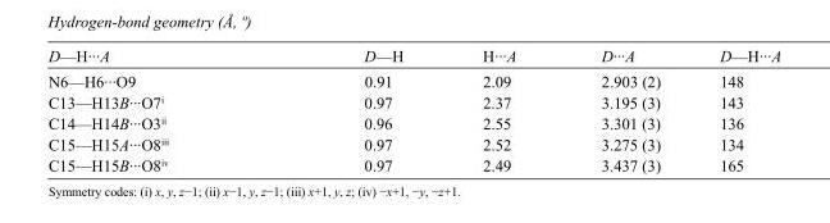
<table><tbody><tr><td>D—H···A</td><td>D—H</td><td>H···A</td><td>D···A</td><td>D—H···A</td></tr><tr><td>N6—H6···O9</td><td>0.91</td><td>2.09</td><td>2.903 (2)</td><td>148</td></tr><tr><td>C13—H13B···O7<sup>i</sup></td><td>0.97</td><td>2.37</td><td>3.195 (3)</td><td>143</td></tr><tr><td>C14—H14B···O3<sup>ii</sup></td><td>0.96</td><td>2.55</td><td>3.301 (3)</td><td>136</td></tr><tr><td>C15—H15A···O8<sup>iii</sup></td><td>0.97</td><td>2.52</td><td>3.275 (3)</td><td>134</td></tr><tr><td>C15—H15B···O8<sup>iv</sup></td><td>0.97</td><td>2.49</td><td>3.437 (3)</td><td>165</td></tr></tbody></table>